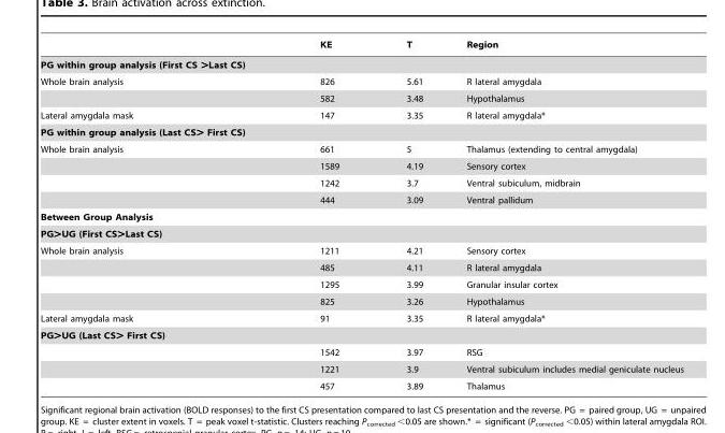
<table><thead><tr><td></td><td>KE</td><td>T</td><td>Region</td></tr></thead><tbody><tr><td colspan="4">PG within group analysis (First CS &gt;Last CS)</td></tr><tr><td rowspan="2">Whole brain analysis</td><td>826</td><td>5.61</td><td>R lateral amygdala</td></tr><tr><td>582</td><td>3.48</td><td>Hypothalamus</td></tr><tr><td>Lateral amygdala mask</td><td>147</td><td>3.35</td><td>R lateral amygdala*</td></tr><tr><td colspan="4">PG within group analysis (Last CS&gt; First CS)</td></tr><tr><td rowspan="4">Whole brain analysis</td><td>661</td><td>5</td><td>Thalamus (extending to central amygdala)</td></tr><tr><td>1589</td><td>4.19</td><td>Sensory cortex</td></tr><tr><td>1242</td><td>3.7</td><td>Ventral subiculum, midbrain</td></tr><tr><td>444</td><td>3.09</td><td>Ventral pallidum</td></tr><tr><td colspan="4">Between Group Analysis</td></tr><tr><td colspan="4">PG&gt;UG (First CS&gt;Last CS)</td></tr><tr><td rowspan="4">Whole brain analysis</td><td>1211</td><td>4.21</td><td>Sensory cortex</td></tr><tr><td>485</td><td>4.11</td><td>R lateral amygdala</td></tr><tr><td>1295</td><td>3.99</td><td>Granular insular cortex</td></tr><tr><td>825</td><td>3.26</td><td>Hypothalamus</td></tr><tr><td>Lateral amygdala mask</td><td>91</td><td>3.35</td><td>R lateral amygdala*</td></tr><tr><td colspan="4">PG&gt;UG (Last CS&gt; First CS)</td></tr><tr><td></td><td>1542</td><td>3.97</td><td>RSG</td></tr><tr><td></td><td>1221</td><td>3.9</td><td>Ventral subiculum includes medial geniculate nucleus</td></tr><tr><td></td><td>457</td><td>3.89</td><td>Thalamus</td></tr></tbody></table>